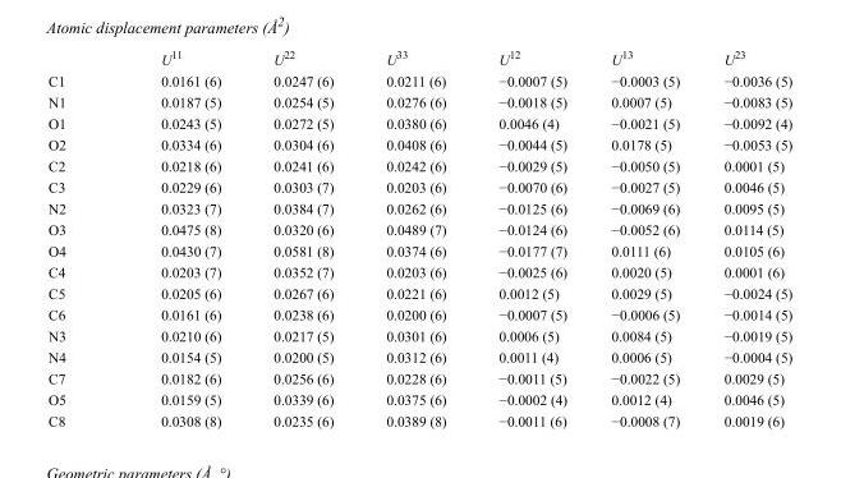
<table><thead><tr><td></td><td>U<sup>11</sup></td><td>U<sup>22</sup></td><td>U<sup>33</sup></td><td>U<sup>12</sup></td><td>U<sup>13</sup></td><td>U<sup>23</sup></td></tr></thead><tbody><tr><td>C1</td><td>0.0161 (6)</td><td>0.0247 (6)</td><td>0.0211 (6)</td><td>−0.0007 (5)</td><td>−0.0003 (5)</td><td>−0.0036 (5)</td></tr><tr><td>N1</td><td>0.0187 (5)</td><td>0.0254 (5)</td><td>0.0276 (6)</td><td>−0.0018 (5)</td><td>0.0007 (5)</td><td>−0.0083 (5)</td></tr><tr><td>O1</td><td>0.0243 (5)</td><td>0.0272 (5)</td><td>0.0380 (6)</td><td>0.0046 (4)</td><td>−0.0021 (5)</td><td>−0.0092 (4)</td></tr><tr><td>O2</td><td>0.0334 (6)</td><td>0.0304 (6)</td><td>0.0408 (6)</td><td>−0.0044 (5)</td><td>0.0178 (5)</td><td>−0.0053 (5)</td></tr><tr><td>C2</td><td>0.0218 (6)</td><td>0.0241 (6)</td><td>0.0242 (6)</td><td>−0.0029 (5)</td><td>−0.0050 (5)</td><td>0.0001 (5)</td></tr><tr><td>C3</td><td>0.0229 (6)</td><td>0.0303 (7)</td><td>0.0203 (6)</td><td>−0.0070 (6)</td><td>−0.0027 (5)</td><td>0.0046 (5)</td></tr><tr><td>N2</td><td>0.0323 (7)</td><td>0.0384 (7)</td><td>0.0262 (6)</td><td>−0.0125 (6)</td><td>−0.0069 (6)</td><td>0.0095 (5)</td></tr><tr><td>O3</td><td>0.0475 (8)</td><td>0.0320 (6)</td><td>0.0489 (7)</td><td>−0.0124 (6)</td><td>−0.0052 (6)</td><td>0.0114 (5)</td></tr><tr><td>O4</td><td>0.0430 (7)</td><td>0.0581 (8)</td><td>0.0374 (6)</td><td>−0.0177 (7)</td><td>0.0111 (6)</td><td>0.0105 (6)</td></tr><tr><td>C4</td><td>0.0203 (7)</td><td>0.0352 (7)</td><td>0.0203 (6)</td><td>−0.0025 (6)</td><td>0.0020 (5)</td><td>0.0001 (6)</td></tr><tr><td>C5</td><td>0.0205 (6)</td><td>0.0267 (6)</td><td>0.0221 (6)</td><td>0.0012 (5)</td><td>0.0029 (5)</td><td>−0.0024 (5)</td></tr><tr><td>C6</td><td>0.0161 (6)</td><td>0.0238 (6)</td><td>0.0200 (6)</td><td>−0.0007 (5)</td><td>−0.0006 (5)</td><td>−0.0014 (5)</td></tr><tr><td>N3</td><td>0.0210 (6)</td><td>0.0217 (5)</td><td>0.0301 (6)</td><td>0.0006 (5)</td><td>0.0084 (5)</td><td>−0.0019 (5)</td></tr><tr><td>N4</td><td>0.0154 (5)</td><td>0.0200 (5)</td><td>0.0312 (6)</td><td>0.0011 (4)</td><td>0.0006 (5)</td><td>−0.0004 (5)</td></tr><tr><td>C7</td><td>0.0182 (6)</td><td>0.0256 (6)</td><td>0.0228 (6)</td><td>−0.0011 (5)</td><td>−0.0022 (5)</td><td>0.0029 (5)</td></tr><tr><td>O5</td><td>0.0159 (5)</td><td>0.0339 (6)</td><td>0.0375 (6)</td><td>−0.0002 (4)</td><td>0.0012 (4)</td><td>0.0046 (5)</td></tr><tr><td>C8</td><td>0.0308 (8)</td><td>0.0235 (6)</td><td>0.0389 (8)</td><td>−0.0011 (6)</td><td>−0.0008 (7)</td><td>0.0019 (6)</td></tr></tbody></table>